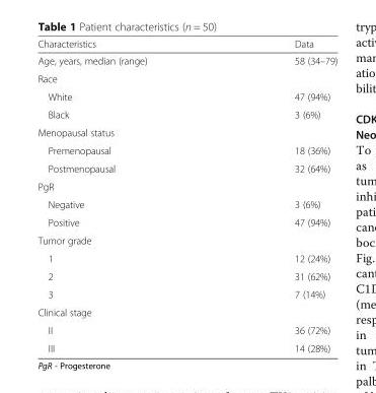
<table><thead><tr><td>Characteristics</td><td>Data</td></tr></thead><tbody><tr><td>Age, years, median (range)</td><td>58 (34–79)</td></tr><tr><td colspan="2">Race</td></tr><tr><td>White</td><td>47 (94%)</td></tr><tr><td>Black</td><td>3 (6%)</td></tr><tr><td colspan="2">Menopausal status</td></tr><tr><td>Premenopausal</td><td>18 (36%)</td></tr><tr><td>Postmenopausal</td><td>32 (64%)</td></tr><tr><td colspan="2">PgR</td></tr><tr><td>Negative</td><td>3 (6%)</td></tr><tr><td>Positive</td><td>47 (94%)</td></tr><tr><td colspan="2">Tumor grade</td></tr><tr><td>1</td><td>12 (24%)</td></tr><tr><td>2</td><td>31 (62%)</td></tr><tr><td>3</td><td>7 (14%)</td></tr><tr><td colspan="2">Clinical stage</td></tr><tr><td>II</td><td>36 (72%)</td></tr><tr><td>III</td><td>14 (28%)</td></tr></tbody></table>